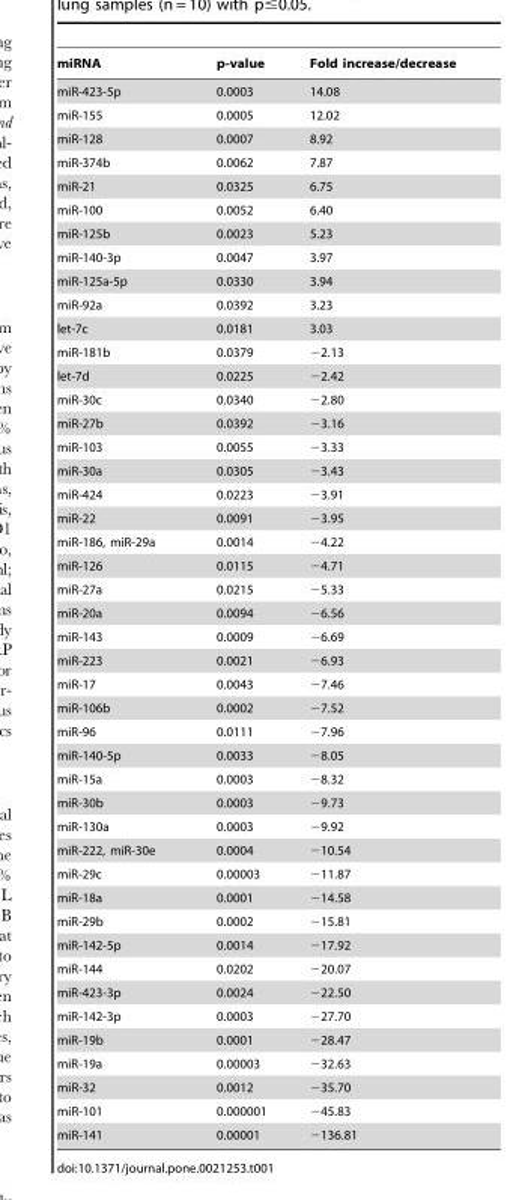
<table><thead><tr><td>miRNA</td><td>p-value</td><td>Fold increase/decrease</td></tr></thead><tbody><tr><td>miR-423-5p</td><td>0.0003</td><td>14.08</td></tr><tr><td>miR-155</td><td>0.0005</td><td>12.02</td></tr><tr><td>miR-128</td><td>0.0007</td><td>8.92</td></tr><tr><td>miR-374b</td><td>0.0062</td><td>7.87</td></tr><tr><td>miR-21</td><td>0.0325</td><td>6.75</td></tr><tr><td>miR-100</td><td>0.0052</td><td>6.40</td></tr><tr><td>miR-125b</td><td>0.0023</td><td>5.23</td></tr><tr><td>miR-140-3p</td><td>0.0047</td><td>3.97</td></tr><tr><td>miR-125a-5p</td><td>0.0330</td><td>3.94</td></tr><tr><td>miR-92a</td><td>0.0392</td><td>3.23</td></tr><tr><td>let-7c</td><td>0.0181</td><td>3.03</td></tr><tr><td>miR-181b</td><td>0.0379</td><td>−2.13</td></tr><tr><td>let-7d</td><td>0.0225</td><td>−2.42</td></tr><tr><td>miR-30c</td><td>0.0340</td><td>−2.80</td></tr><tr><td>miR-27b</td><td>0.0392</td><td>−3.16</td></tr><tr><td>miR-103</td><td>0.0055</td><td>−3.33</td></tr><tr><td>miR-30a</td><td>0.0305</td><td>−3.43</td></tr><tr><td>miR-424</td><td>0.0223</td><td>−3.91</td></tr><tr><td>miR-22</td><td>0.0091</td><td>−3.95</td></tr><tr><td>miR-186, miR-29a</td><td>0.0014</td><td>−4.22</td></tr><tr><td>miR-126</td><td>0.0115</td><td>−4.71</td></tr><tr><td>miR-27a</td><td>0.0215</td><td>−5.33</td></tr><tr><td>miR-20a</td><td>0.0094</td><td>−6.56</td></tr><tr><td>miR-143</td><td>0.0009</td><td>−6.69</td></tr><tr><td>miR-223</td><td>0.0021</td><td>−6.93</td></tr><tr><td>miR-17</td><td>0.0043</td><td>−7.46</td></tr><tr><td>miR-106b</td><td>0.0002</td><td>−7.52</td></tr><tr><td>miR-96</td><td>0.0111</td><td>−7.96</td></tr><tr><td>miR-140-5p</td><td>0.0033</td><td>−8.05</td></tr><tr><td>miR-15a</td><td>0.0003</td><td>−8.32</td></tr><tr><td>miR-30b</td><td>0.0003</td><td>−9.73</td></tr><tr><td>miR-130a</td><td>0.0003</td><td>−9.92</td></tr><tr><td>miR-222, miR-30e</td><td>0.0004</td><td>−10.54</td></tr><tr><td>miR-29c</td><td>0.00003</td><td>−11.87</td></tr><tr><td>miR-18a</td><td>0.0001</td><td>−14.58</td></tr><tr><td>miR-29b</td><td>0.0002</td><td>−15.81</td></tr><tr><td>miR-142-5p</td><td>0.0014</td><td>−17.92</td></tr><tr><td>miR-144</td><td>0.0202</td><td>−20.07</td></tr><tr><td>miR-423-3p</td><td>0.0024</td><td>−22.50</td></tr><tr><td>miR-142-3p</td><td>0.0003</td><td>−27.70</td></tr><tr><td>miR-19b</td><td>0.0001</td><td>−28.47</td></tr><tr><td>miR-19a</td><td>0.00003</td><td>−32.63</td></tr><tr><td>miR-32</td><td>0.0012</td><td>−35.70</td></tr><tr><td>miR-101</td><td>0.000001</td><td>−45.83</td></tr><tr><td>miR-141</td><td>0.00001</td><td>−136.81</td></tr></tbody></table>